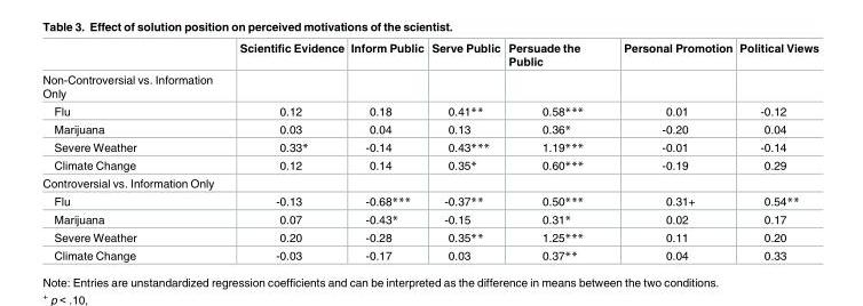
<table><thead><tr><td></td><td>Scientific Evidence</td><td>Inform Public</td><td>Serve Public</td><td>Persuade the Public</td><td>Personal Promotion</td><td>Political Views</td></tr></thead><tbody><tr><td colspan="7">Non-Controversial vs. Information Only</td></tr><tr><td>Flu</td><td>0.12</td><td>0.18</td><td>0.41**</td><td>0.58***</td><td>0.01</td><td>-0.12</td></tr><tr><td>Marijuana</td><td>0.03</td><td>0.04</td><td>0.13</td><td>0.36*</td><td>-0.20</td><td>0.04</td></tr><tr><td>Severe Weather</td><td>0.33*</td><td>-0.14</td><td>0.43***</td><td>1.19***</td><td>-0.01</td><td>-0.14</td></tr><tr><td>Climate Change</td><td>0.12</td><td>0.14</td><td>0.35*</td><td>0.60***</td><td>-0.19</td><td>0.29</td></tr><tr><td colspan="7">Controversial vs. Information Only</td></tr><tr><td>Flu</td><td>-0.13</td><td>-0.68***</td><td>-0.37**</td><td>0.50***</td><td>0.31+</td><td>0.54**</td></tr><tr><td>Marijuana</td><td>0.07</td><td>-0.43*</td><td>-0.15</td><td>0.31*</td><td>0.02</td><td>0.17</td></tr><tr><td>Severe Weather</td><td>0.20</td><td>-0.28</td><td>0.35**</td><td>1.25***</td><td>0.11</td><td>0.20</td></tr><tr><td>Climate Change</td><td>-0.03</td><td>-0.17</td><td>0.03</td><td>0.37**</td><td>0.04</td><td>0.33</td></tr></tbody></table>